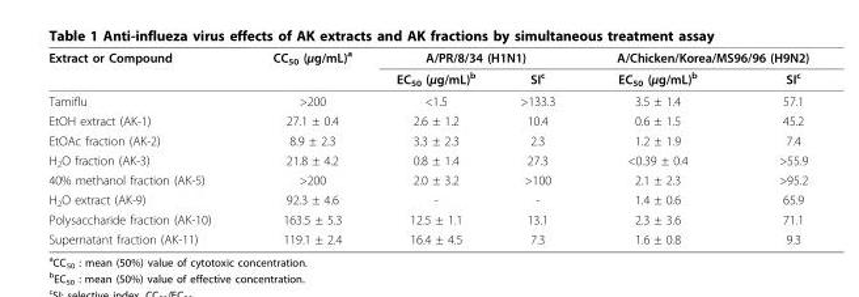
<table><thead><tr><td rowspan="2">Extract or Compound</td><td rowspan="2">CC<sub>50</sub> (μg/mL)<sup>a</sup></td><td colspan="2">A/PR/8/34 (H1N1)</td><td colspan="2">A/Chicken/Korea/MS96/96 (H9N2)</td></tr><tr><td>EC<sub>50</sub> (μg/mL)<sup>b</sup></td><td>SI<sup>c</sup></td><td>EC<sub>50</sub> (μg/mL)<sup>b</sup></td><td>SI<sup>c</sup></td></tr></thead><tbody><tr><td>Tamiflu</td><td>&gt;200</td><td>&lt;1.5</td><td>&gt;133.3</td><td>3.5 ± 1.4</td><td>57.1</td></tr><tr><td>EtOH extract (AK-1)</td><td>27.1 ± 0.4</td><td>2.6 ± 1.2</td><td>10.4</td><td>0.6 ± 1.5</td><td>45.2</td></tr><tr><td>EtOAc fraction (AK-2)</td><td>8.9 ± 2.3</td><td>3.3 ± 2.3</td><td>2.3</td><td>1.2 ± 1.9</td><td>7.4</td></tr><tr><td>H<sub>2</sub>O fraction (AK-3)</td><td>21.8 ± 4.2</td><td>0.8 ± 1.4</td><td>27.3</td><td>&lt;0.39 ± 0.4</td><td>&gt;55.9</td></tr><tr><td>40% methanol fraction (AK-5)</td><td>&gt;200</td><td>2.0 ± 3.2</td><td>&gt;100</td><td>2.1 ± 2.3</td><td>&gt;95.2</td></tr><tr><td>H<sub>2</sub>O extract (AK-9)</td><td>92.3 ± 4.6</td><td>-</td><td>-</td><td>1.4 ± 0.6</td><td>65.9</td></tr><tr><td>Polysaccharide fraction (AK-10)</td><td>163.5 ± 5.3</td><td>12.5 ± 1.1</td><td>13.1</td><td>2.3 ± 3.6</td><td>71.1</td></tr><tr><td>Supernatant fraction (AK-11)</td><td>119.1 ± 2.4</td><td>16.4 ± 4.5</td><td>7.3</td><td>1.6 ± 0.8</td><td>9.3</td></tr></tbody></table>